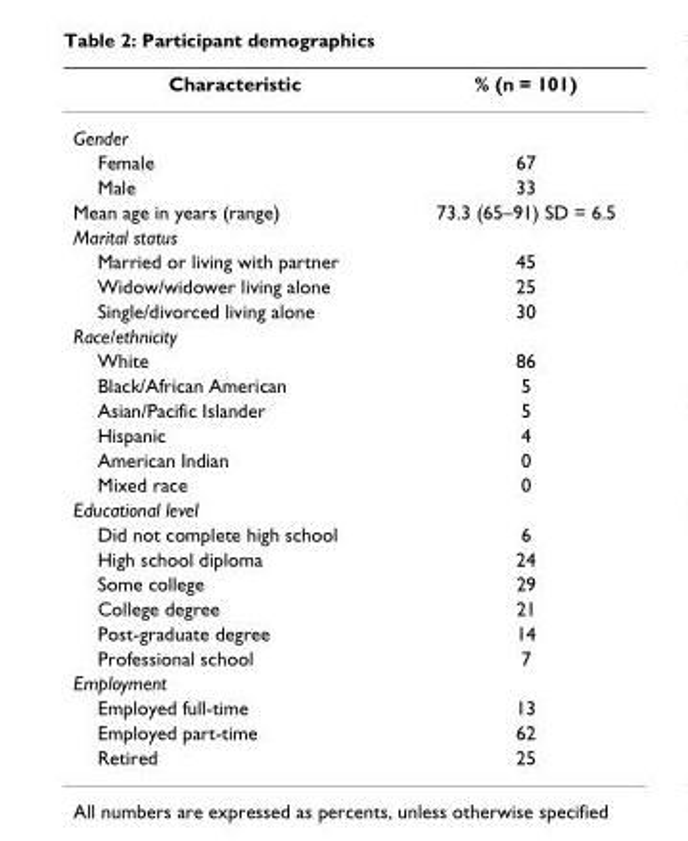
<table><thead><tr><td>Characteristic</td><td>% (n = 101)</td></tr></thead><tbody><tr><td colspan="2">Gender</td></tr><tr><td>Female</td><td>67</td></tr><tr><td>Male</td><td>33</td></tr><tr><td>Mean age in years (range)</td><td>73.3 (65–91) SD = 6.5</td></tr><tr><td colspan="2">Marital status</td></tr><tr><td>Married or living with partner</td><td>45</td></tr><tr><td>Widow/widower living alone</td><td>25</td></tr><tr><td>Single/divorced living alone</td><td>30</td></tr><tr><td colspan="2">Race/ethnicity</td></tr><tr><td>White</td><td>86</td></tr><tr><td>Black/African American</td><td>5</td></tr><tr><td>Asian/Pacific Islander</td><td>5</td></tr><tr><td>Hispanic</td><td>4</td></tr><tr><td>American Indian</td><td>0</td></tr><tr><td>Mixed race</td><td>0</td></tr><tr><td colspan="2">Educational level</td></tr><tr><td>Did not complete high school</td><td>6</td></tr><tr><td>High school diploma</td><td>24</td></tr><tr><td>Some college</td><td>29</td></tr><tr><td>College degree</td><td>21</td></tr><tr><td>Post-graduate degree</td><td>14</td></tr><tr><td>Professional school</td><td>7</td></tr><tr><td colspan="2">Employment</td></tr><tr><td>Employed full-time</td><td>13</td></tr><tr><td>Employed part-time</td><td>62</td></tr><tr><td>Retired</td><td>25</td></tr></tbody></table>